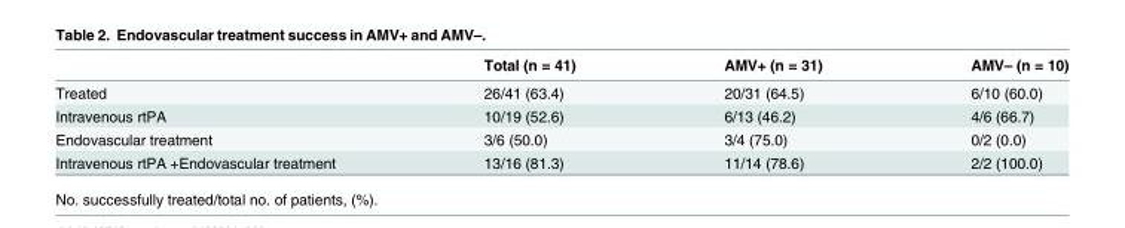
<table><thead><tr><td></td><td>Total (n = 41)</td><td>AMV+ (n = 31)</td><td>AMV– (n = 10)</td></tr></thead><tbody><tr><td>Treated</td><td>26/41 (63.4)</td><td>20/31 (64.5)</td><td>6/10 (60.0)</td></tr><tr><td>Intravenous rtPA</td><td>10/19 (52.6)</td><td>6/13 (46.2)</td><td>4/6 (66.7)</td></tr><tr><td>Endovascular treatment</td><td>3/6 (50.0)</td><td>3/4 (75.0)</td><td>0/2 (0.0)</td></tr><tr><td>Intravenous rtPA +Endovascular treatment</td><td>13/16 (81.3)</td><td>11/14 (78.6)</td><td>2/2 (100.0)</td></tr></tbody></table>